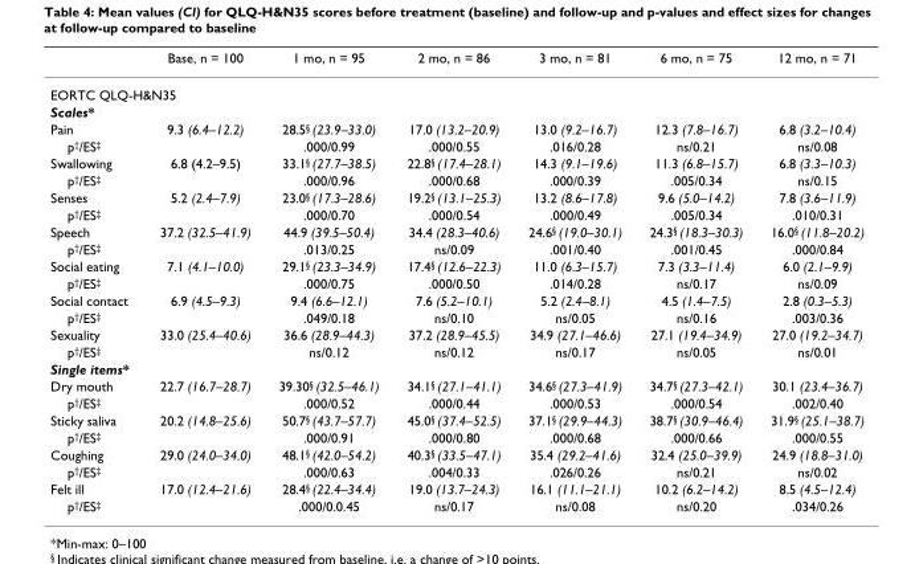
<table><thead><tr><td></td><td>Base, n = 100</td><td>1 mo, n = 95</td><td>2 mo, n = 86</td><td>3 mo, n = 81</td><td>6 mo, n = 75</td><td>12 mo, n = 71</td></tr></thead><tbody><tr><td colspan="7">EORTC QLQ-H&amp;N35</td></tr><tr><td colspan="7">Scales*</td></tr><tr><td>Pain</td><td>9.3 (6.4–12.2)</td><td>28.5<sup>§</sup> (23.9–33.0)</td><td>17.0 (13.2–20.9)</td><td>13.0 (9.2–16.7)</td><td>12.3 (7.8–16.7)</td><td>6.8 (3.2–10.4)</td></tr><tr><td>p<sup>†</sup>/ES<sup>‡</sup></td><td></td><td>.000/0.99</td><td>.000/0.55</td><td>.016/0.28</td><td>ns/0.21</td><td>ns/0.08</td></tr><tr><td>Swallowing</td><td>6.8 (4.2–9.5)</td><td>33.1<sup>§</sup> (27.7–38.5)</td><td>22.8<sup>§</sup> (17.4–28.1)</td><td>14.3 (9.1–19.6)</td><td>11.3 (6.8–15.7)</td><td>6.8 (3.3–10.3)</td></tr><tr><td>p<sup>†</sup>/ES<sup>‡</sup></td><td></td><td>.000/0.96</td><td>.000/0.68</td><td>.000/0.39</td><td>.005/0.34</td><td>ns/0.15</td></tr><tr><td>Senses</td><td>5.2 (2.4–7.9)</td><td>23.0<sup>§</sup> (17.3–28.6)</td><td>19.2<sup>§</sup> (13.1–25.3)</td><td>13.2 (8.6–17.8)</td><td>9.6 (5.0–14.2)</td><td>7.8 (3.6–11.9)</td></tr><tr><td>p<sup>†</sup>/ES<sup>‡</sup></td><td></td><td>.000/0.70</td><td>.000/0.54</td><td>.000/0.49</td><td>.005/0.34</td><td>.010/0.31</td></tr><tr><td>Speech</td><td>37.2 (32.5–41.9)</td><td>44.9 (39.5–50.4)</td><td>34.4 (28.3–40.6)</td><td>24.6<sup>§</sup> (19.0–30.1)</td><td>24.3<sup>§</sup> (18.3–30.3)</td><td>16.0<sup>§</sup> (11.8–20.2)</td></tr><tr><td>p<sup>†</sup>/ES<sup>‡</sup></td><td></td><td>.013/0.25</td><td>ns/0.09</td><td>.001/0.40</td><td>.001/0.45</td><td>.000/0.84</td></tr><tr><td>Social eating</td><td>7.1 (4.1–10.0)</td><td>29.1<sup>§</sup> (23.3–34.9)</td><td>17.4<sup>§</sup> (12.6–22.3)</td><td>11.0 (6.3–15.7)</td><td>7.3 (3.3–11.4)</td><td>6.0 (2.1–9.9)</td></tr><tr><td>p<sup>†</sup>/ES<sup>‡</sup></td><td></td><td>.000/0.75</td><td>.000/0.50</td><td>.014/0.28</td><td>ns/0.17</td><td>ns/0.09</td></tr><tr><td>Social contact</td><td>6.9 (4.5–9.3)</td><td>9.4 (6.6–12.1)</td><td>7.6 (5.2–10.1)</td><td>5.2 (2.4–8.1)</td><td>4.5 (1.4–7.5)</td><td>2.8 (0.3–5.3)</td></tr><tr><td>p<sup>†</sup>/ES<sup>‡</sup></td><td></td><td>.049/0.18</td><td>ns/0.10</td><td>ns/0.05</td><td>ns/0.16</td><td>.003/0.36</td></tr><tr><td>Sexuality</td><td>33.0 (25.4–40.6)</td><td>36.6 (28.9–44.3)</td><td>37.2 (28.9–45.5)</td><td>34.9 (27.1–46.6)</td><td>27.1 (19.4–34.9)</td><td>27.0 (19.2–34.7)</td></tr><tr><td>p<sup>†</sup>/ES<sup>‡</sup></td><td></td><td>ns/0.12</td><td>ns/0.12</td><td>ns/0.17</td><td>ns/0.05</td><td>ns/0.01</td></tr><tr><td colspan="7">Single items*</td></tr><tr><td>Dry mouth</td><td>22.7 (16.7–28.7)</td><td>39.30<sup>§</sup> (32.5–46.1)</td><td>34.1<sup>§</sup> (27.1–41.1)</td><td>34.6<sup>§</sup> (27.3–41.9)</td><td>34.7<sup>§</sup> (27.3–42.1)</td><td>30.1 (23.4–36.7)</td></tr><tr><td>p<sup>†</sup>/ES<sup>‡</sup></td><td></td><td>.000/0.52</td><td>.000/0.44</td><td>.000/0.53</td><td>.000/0.54</td><td>.002/0.40</td></tr><tr><td>Sticky saliva</td><td>20.2 (14.8–25.6)</td><td>50.7<sup>§</sup> (43.7–57.7)</td><td>45.0<sup>§</sup> (37.4–52.5)</td><td>37.1<sup>§</sup> (29.9–44.3)</td><td>38.7<sup>§</sup> (30.9–46.4)</td><td>31.9<sup>§</sup> (25.1–38.7)</td></tr><tr><td>p<sup>†</sup>/ES<sup>‡</sup></td><td></td><td>.000/0.91</td><td>.000/0.80</td><td>.000/0.68</td><td>.000/0.66</td><td>.000/0.55</td></tr><tr><td>Coughing</td><td>29.0 (24.0–34.0)</td><td>48.1<sup>§</sup> (42.0–54.2)</td><td>40.3<sup>§</sup> (33.5–47.1)</td><td>35.4 (29.2–41.6)</td><td>32.4 (25.0–39.9)</td><td>24.9 (18.8–31.0)</td></tr><tr><td>p<sup>†</sup>/ES<sup>‡</sup></td><td></td><td>.000/0.63</td><td>.004/0.33</td><td>.026/0.26</td><td>ns/0.21</td><td>ns/0.02</td></tr><tr><td>Felt ill</td><td>17.0 (12.4–21.6)</td><td>28.4<sup>§</sup> (22.4–34.4)</td><td>19.0 (13.7–24.3)</td><td>16.1 (11.1–21.1)</td><td>10.2 (6.2–14.2)</td><td>8.5 (4.5–12.4)</td></tr><tr><td>p<sup>†</sup>/ES<sup>‡</sup></td><td></td><td>.000/0.0.45</td><td>ns/0.17</td><td>ns/0.08</td><td>ns/0.20</td><td>.034/0.26</td></tr></tbody></table>